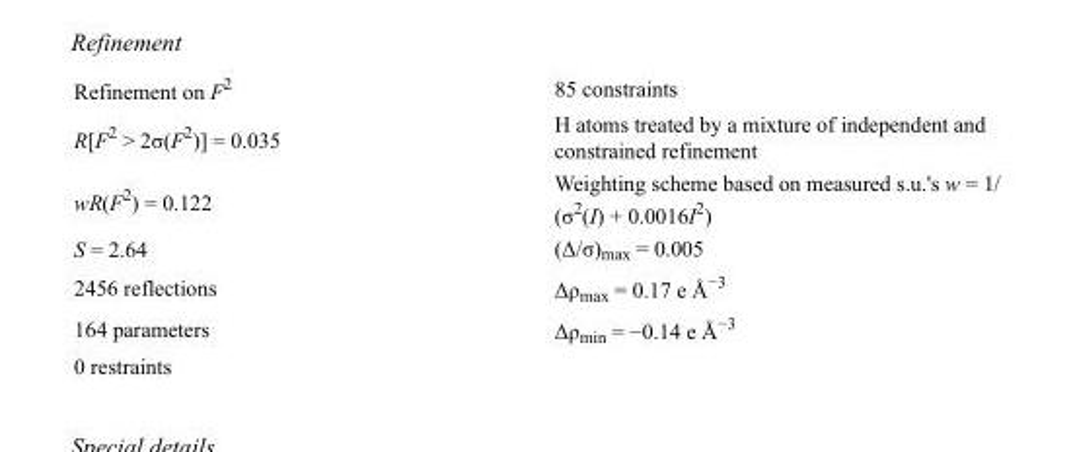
<table><tbody><tr><td>Refinement on F<sup>2</sup></td><td>85 constraints</td></tr><tr><td>R[F<sup>2</sup> &gt; 2σ(F<sup>2</sup>)] = 0.035</td><td>H atoms treated by a mixture of independent and constrained refinement</td></tr><tr><td>wR(F<sup>2</sup>) = 0.122</td><td>Weighting scheme based on measured s.u.&#x27;s w = 1/ (σ<sup>2</sup>(I) + 0.0016I<sup>2</sup>)</td></tr><tr><td>S = 2.64</td><td>(Δ/σ)<sub>max</sub> = 0.005</td></tr><tr><td>2456 reflections</td><td>Δρ<sub>max</sub> = 0.17 e Å<sup>−3</sup></td></tr><tr><td>164 parameters</td><td>Δρ<sub>min</sub> = −0.14 e Å<sup>−3</sup></td></tr><tr><td>0 restraints</td><td></td></tr></tbody></table>